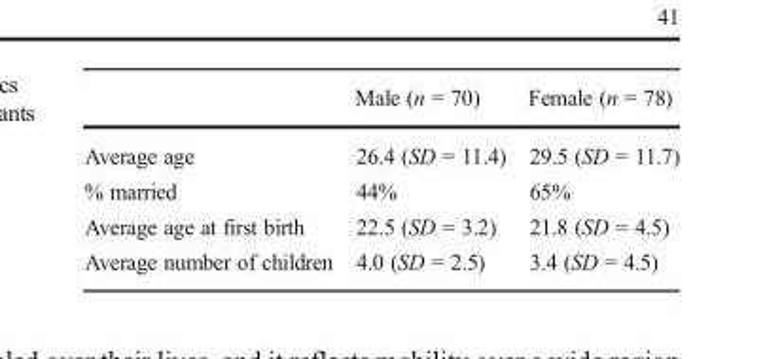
<table><thead><tr><td></td><td>Male (n = 70)</td><td>Female (n = 78)</td></tr></thead><tbody><tr><td>Average age</td><td>26.4 (SD = 11.4)</td><td>29.5 (SD = 11.7)</td></tr><tr><td>% married</td><td>44%</td><td>65%</td></tr><tr><td>Average age at first birth</td><td>22.5 (SD = 3.2)</td><td>21.8 (SD = 4.5)</td></tr><tr><td>Average number of children</td><td>4.0 (SD = 2.5)</td><td>3.4 (SD = 4.5)</td></tr></tbody></table>